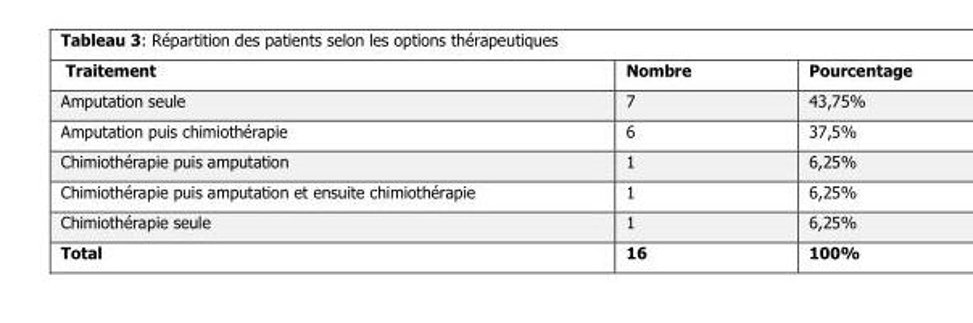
<table><thead><tr><td>Traitement</td><td>Nombre</td><td>Pourcentage</td></tr></thead><tbody><tr><td>Amputation seule</td><td>7</td><td>43,75%</td></tr><tr><td>Amputation puis chimiothérapie</td><td>6</td><td>37,5%</td></tr><tr><td>Chimiothérapie puis amputation</td><td>1</td><td>6,25%</td></tr><tr><td>Chimiothérapie puis amputation et ensuite chimiothérapie</td><td>1</td><td>6,25%</td></tr><tr><td>Chimiothérapie seule</td><td>1</td><td>6,25%</td></tr><tr><td>Total</td><td>16</td><td>100%</td></tr></tbody></table>